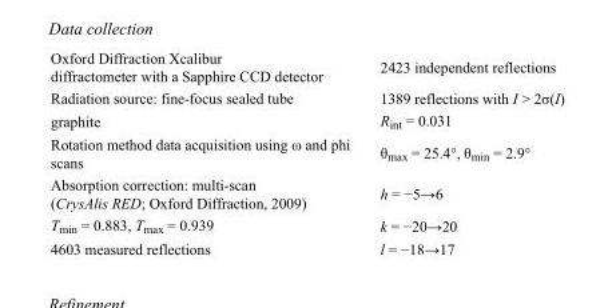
<table><tbody><tr><td>Oxford Diffraction Xcalibur diffractometer with a Sapphire CCD detector</td><td>2423 independent reflections</td></tr><tr><td>Radiation source: fine-focus sealed tube</td><td>1389 reflections with I &gt; 2σ(I)</td></tr><tr><td>graphite</td><td>R<sub>int</sub> = 0.031</td></tr><tr><td>Rotation method data acquisition using ω and phi scans</td><td>θ<sub>max</sub> = 25.4°, θ<sub>min</sub> = 2.9°</td></tr><tr><td>Absorption correction: multi-scan (CrysAlis RED; Oxford Diffraction, 2009)</td><td>h = −5→6</td></tr><tr><td>T<sub>min</sub> = 0.883, T<sub>max</sub> = 0.939</td><td>k = −20→20</td></tr><tr><td>4603 measured reflections</td><td>l = −18→17</td></tr></tbody></table>